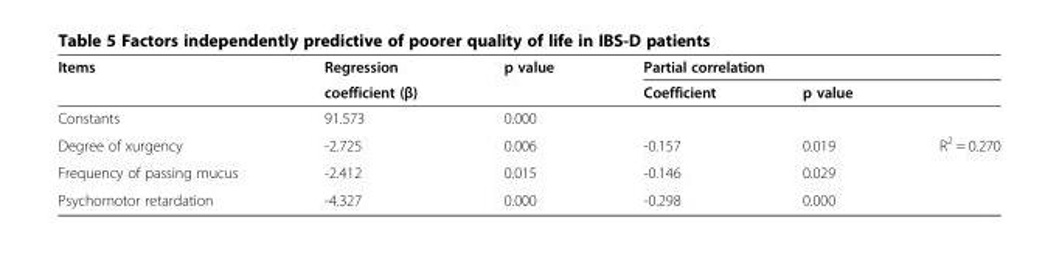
<table><thead><tr><td rowspan="2">Items</td><td rowspan="2">Regression coefficient (β)</td><td rowspan="2">p value</td><td colspan="3">Partial correlation</td></tr><tr><td>Coefficient</td><td>p value</td><td></td></tr></thead><tbody><tr><td>Constants</td><td>91.573</td><td>0.000</td><td></td><td></td><td></td></tr><tr><td>Degree of xurgency</td><td>-2.725</td><td>0.006</td><td>-0.157</td><td>0.019</td><td rowspan="3">R<sup>2</sup> = 0.270</td></tr><tr><td>Frequency of passing mucus</td><td>-2.412</td><td>0.015</td><td>-0.146</td><td>0.029</td></tr><tr><td>Psychomotor retardation</td><td>-4.327</td><td>0.000</td><td>-0.298</td><td>0.000</td></tr></tbody></table>